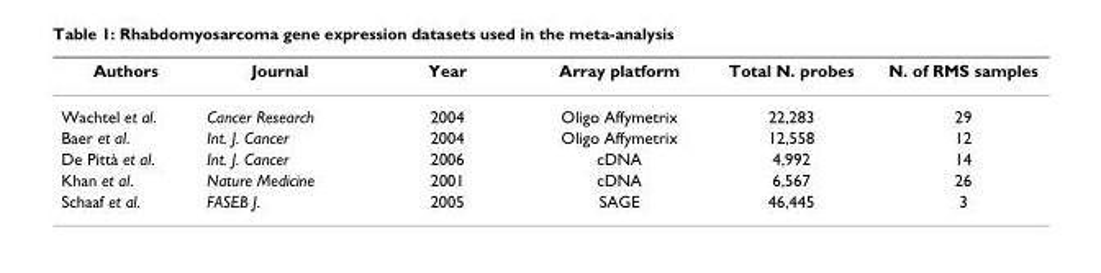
<table><thead><tr><td>Authors</td><td>Journal</td><td>Year</td><td>Array platform</td><td>Total N. probes</td><td>N. of RMS samples</td></tr></thead><tbody><tr><td>Wachtel et al.</td><td>Cancer Research</td><td>2004</td><td>Oligo Affymetrix</td><td>22,283</td><td>29</td></tr><tr><td>Baer et al.</td><td>Int. J. Cancer</td><td>2004</td><td>Oligo Affymetrix</td><td>12,558</td><td>12</td></tr><tr><td>De Pittà et al.</td><td>Int. J. Cancer</td><td>2006</td><td>cDNA</td><td>4,992</td><td>14</td></tr><tr><td>Khan et al.</td><td>Nature Medicine</td><td>2001</td><td>cDNA</td><td>6,567</td><td>26</td></tr><tr><td>Schaaf et al.</td><td>FASEB J.</td><td>2005</td><td>SAGE</td><td>46,445</td><td>3</td></tr></tbody></table>